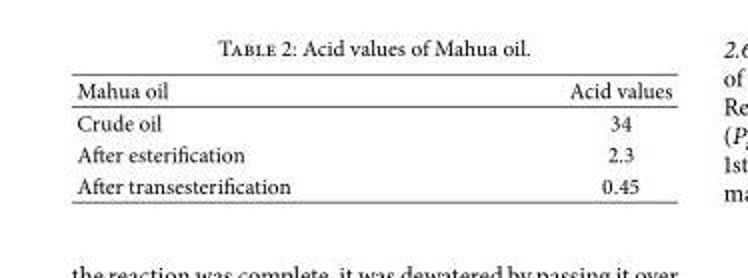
<table><thead><tr><td>Mahua oil</td><td>Acid values</td></tr></thead><tbody><tr><td>Crude oil</td><td>34</td></tr><tr><td>After esterification</td><td>2.3</td></tr><tr><td>After transesterification</td><td>0.45</td></tr></tbody></table>